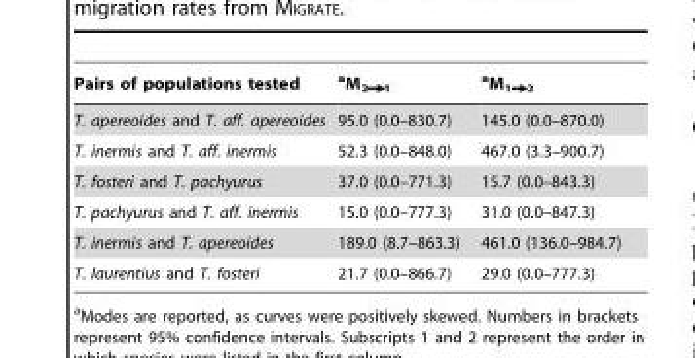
<table><thead><tr><td>Pairs of populations tested</td><td>aM2 1</td><td>aM1 2</td></tr></thead><tbody><tr><td>T. apereoides and T. aff. apereoides</td><td>95.0 (0.0–830.7)</td><td>145.0 (0.0–870.0)</td></tr><tr><td>T. inermis and T. aff. inermis</td><td>52.3 (0.0–848.0)</td><td>467.0 (3.3–900.7)</td></tr><tr><td>T. fosteri and T. pachyurus</td><td>37.0 (0.0–771.3)</td><td>15.7 (0.0–843.3)</td></tr><tr><td>T. pachyurus and T. aff. inermis</td><td>15.0 (0.0–777.3)</td><td>31.0 (0.0–847.3)</td></tr><tr><td>T. inermis and T. apereoides</td><td>189.0 (8.7–863.3)</td><td>461.0 (136.0–984.7)</td></tr><tr><td>T. laurentius and T. fosteri</td><td>21.7 (0.0–866.7)</td><td>29.0 (0.0–777.3)</td></tr></tbody></table>